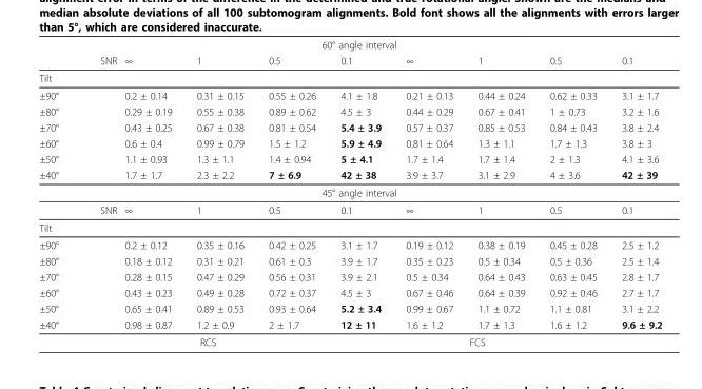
<table><thead><tr><td colspan="10">60° angle interval</td></tr><tr><td></td><td>SNR</td><td>∞</td><td>1</td><td>0.5</td><td>0.1</td><td>∞</td><td>1</td><td>0.5</td><td>0.1</td></tr></thead><tbody><tr><td colspan="10">Tilt</td></tr><tr><td>±90°</td><td></td><td>0.2 ± 0.14</td><td>0.31 ± 0.15</td><td>0.55 ± 0.26</td><td>4.1 ± 1.8</td><td>0.21 ± 0.13</td><td>0.44 ± 0.24</td><td>0.62 ± 0.33</td><td>3.1 ± 1.7</td></tr><tr><td>±80°</td><td></td><td>0.29 ± 0.19</td><td>0.55 ± 0.38</td><td>0.89 ± 0.62</td><td>4.5 ± 3</td><td>0.44 ± 0.29</td><td>0.67 ± 0.41</td><td>1 ± 0.73</td><td>3.2 ± 1.6</td></tr><tr><td>±70°</td><td></td><td>0.43 ± 0.25</td><td>0.67 ± 0.38</td><td>0.81 ± 0.54</td><td>5.4 ± 3.9</td><td>0.57 ± 0.37</td><td>0.85 ± 0.53</td><td>0.84 ± 0.43</td><td>3.8 ± 2.4</td></tr><tr><td>±60°</td><td></td><td>0.6 ± 0.4</td><td>0.99 ± 0.79</td><td>1.5 ± 1.2</td><td>5.9 ± 4.9</td><td>0.81 ± 0.64</td><td>1.3 ± 1.1</td><td>1.7 ± 1.3</td><td>3.8 ± 3</td></tr><tr><td>±50°</td><td></td><td>1.1 ± 0.93</td><td>1.3 ± 1.1</td><td>1.4 ± 0.94</td><td>5 ± 4.1</td><td>1.7 ± 1.4</td><td>1.7 ± 1.4</td><td>2 ± 1.3</td><td>4.1 ± 3.6</td></tr><tr><td>±40°</td><td></td><td>1.7 ± 1.7</td><td>2.3 ± 2.2</td><td>7 ± 6.9</td><td>42 ± 38</td><td>3.9 ± 3.7</td><td>3.1 ± 2.9</td><td>4 ± 3.6</td><td>42 ± 39</td></tr><tr><td colspan="10">45° angle interval</td></tr><tr><td></td><td>SNR</td><td>∞</td><td>1</td><td>0.5</td><td>0.1</td><td>∞</td><td>1</td><td>0.5</td><td>0.1</td></tr><tr><td colspan="10">Tilt</td></tr><tr><td>±90°</td><td></td><td>0.2 ± 0.12</td><td>0.35 ± 0.16</td><td>0.42 ± 0.25</td><td>3.1 ± 1.7</td><td>0.19 ± 0.12</td><td>0.38 ± 0.19</td><td>0.45 ± 0.28</td><td>2.5 ± 1.2</td></tr><tr><td>±80°</td><td></td><td>0.18 ± 0.12</td><td>0.31 ± 0.21</td><td>0.61 ± 0.3</td><td>3.9 ± 1.7</td><td>0.35 ± 0.23</td><td>0.5 ± 0.34</td><td>0.5 ± 0.36</td><td>2.5 ± 1.4</td></tr><tr><td>±70°</td><td></td><td>0.28 ± 0.15</td><td>0.47 ± 0.29</td><td>0.56 ± 0.31</td><td>3.9 ± 2.1</td><td>0.5 ± 0.34</td><td>0.64 ± 0.43</td><td>0.63 ± 0.45</td><td>2.8 ± 1.7</td></tr><tr><td>±60°</td><td></td><td>0.43 ± 0.23</td><td>0.49 ± 0.28</td><td>0.72 ± 0.37</td><td>4.5 ± 3</td><td>0.67 ± 0.46</td><td>0.64 ± 0.39</td><td>0.92 ± 0.46</td><td>2.7 ± 1.7</td></tr><tr><td>±50°</td><td></td><td>0.65 ± 0.41</td><td>0.89 ± 0.53</td><td>0.93 ± 0.64</td><td>5.2 ± 3.4</td><td>0.99 ± 0.67</td><td>1.1 ± 0.72</td><td>1.1 ± 0.81</td><td>3.1 ± 2.2</td></tr><tr><td>±40°</td><td></td><td>0.98 ± 0.87</td><td>1.2 ± 0.9</td><td>2 ± 1.7</td><td>12 ± 11</td><td>1.6 ± 1.2</td><td>1.7 ± 1.3</td><td>1.6 ± 1.2</td><td>9.6 ± 9.2</td></tr><tr><td colspan="2"></td><td colspan="4">RCS</td><td colspan="4">FCS</td></tr></tbody></table>